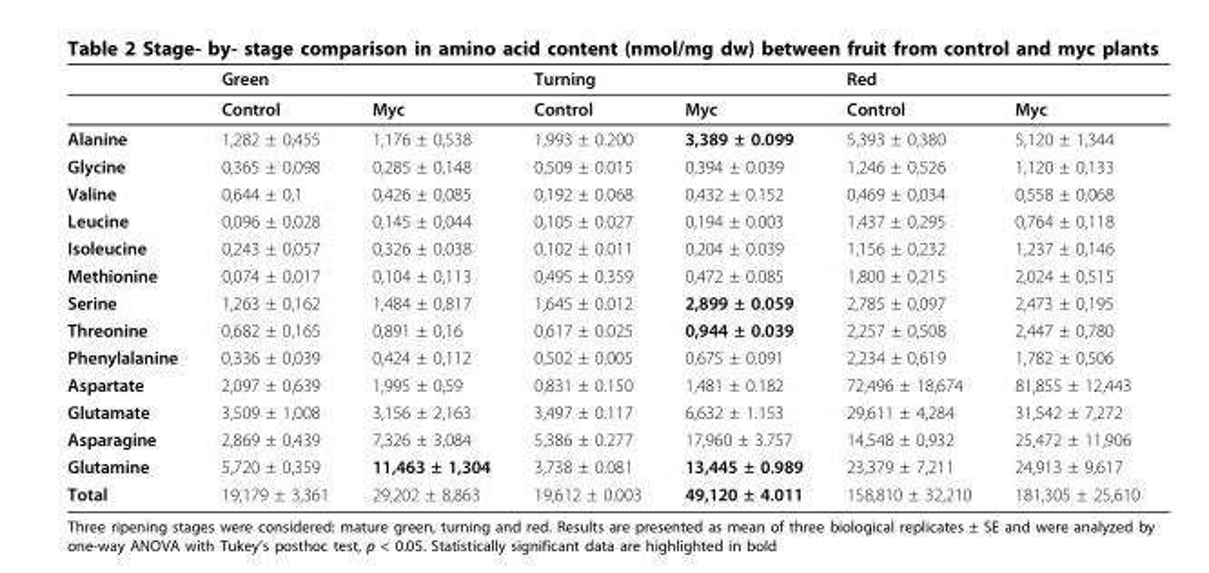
<table><thead><tr><td rowspan="2"></td><td colspan="2">Green</td><td colspan="2">Turning</td><td colspan="2">Red</td></tr><tr><td>Control</td><td>Myc</td><td>Control</td><td>Myc</td><td>Control</td><td>Myc</td></tr></thead><tbody><tr><td>Alanine</td><td>1,282 ± 0,455</td><td>1,176 ± 0,538</td><td>1,993 ± 0.200</td><td>3,389 ± 0.099</td><td>5,393 ± 0,380</td><td>5,120 ± 1,344</td></tr><tr><td>Glycine</td><td>0,365 ± 0,098</td><td>0,285 ± 0,148</td><td>0,509 ± 0.015</td><td>0,394 ± 0.039</td><td>1,246 ± 0,526</td><td>1,120 ± 0,133</td></tr><tr><td>Valine</td><td>0,644 ± 0,1</td><td>0,426 ± 0,085</td><td>0,192 ± 0.068</td><td>0,432 ± 0.152</td><td>0,469 ± 0,034</td><td>0,558 ± 0,068</td></tr><tr><td>Leucine</td><td>0,096 ± 0,028</td><td>0,145 ± 0,044</td><td>0,105 ± 0.027</td><td>0,194 ± 0.003</td><td>1,437 ± 0,295</td><td>0,764 ± 0,118</td></tr><tr><td>Isoleucine</td><td>0,243 ± 0,057</td><td>0,326 ± 0,038</td><td>0,102 ± 0.011</td><td>0,204 ± 0.039</td><td>1,156 ± 0,232</td><td>1,237 ± 0,146</td></tr><tr><td>Methionine</td><td>0,074 ± 0,017</td><td>0,104 ± 0,113</td><td>0,495 ± 0.359</td><td>0,472 ± 0.085</td><td>1,800 ± 0,215</td><td>2,024 ± 0,515</td></tr><tr><td>Serine</td><td>1,263 ± 0,162</td><td>1,484 ± 0,817</td><td>1,645 ± 0.012</td><td>2,899 ± 0.059</td><td>2,785 ± 0,097</td><td>2,473 ± 0,195</td></tr><tr><td>Threonine</td><td>0,682 ± 0,165</td><td>0,891 ± 0,16</td><td>0,617 ± 0.025</td><td>0,944 ± 0.039</td><td>2,257 ± 0,508</td><td>2,447 ± 0,780</td></tr><tr><td>Phenylalanine</td><td>0,336 ± 0,039</td><td>0,424 ± 0,112</td><td>0,502 ± 0.005</td><td>0,675 ± 0.091</td><td>2,234 ± 0,619</td><td>1,782 ± 0,506</td></tr><tr><td>Aspartate</td><td>2,097 ± 0,639</td><td>1,995 ± 0,59</td><td>0,831 ± 0.150</td><td>1,481 ± 0.182</td><td>72,496 ± 18,674</td><td>81,855 ± 12,443</td></tr><tr><td>Glutamate</td><td>3,509 ± 1,008</td><td>3,156 ± 2,163</td><td>3,497 ± 0.117</td><td>6,632 ± 1.153</td><td>29,611 ± 4,284</td><td>31,542 ± 7,272</td></tr><tr><td>Asparagine</td><td>2,869 ± 0,439</td><td>7,326 ± 3,084</td><td>5,386 ± 0.277</td><td>17,960 ± 3.757</td><td>14,548 ± 0,932</td><td>25,472 ± 11,906</td></tr><tr><td>Glutamine</td><td>5,720 ± 0,359</td><td>11,463 ± 1,304</td><td>3,738 ± 0.081</td><td>13,445 ± 0.989</td><td>23,379 ± 7,211</td><td>24,913 ± 9,617</td></tr><tr><td>Total</td><td>19,179 ± 3,361</td><td>29,202 ± 8,863</td><td>19,612 ± 0.003</td><td>49,120 ± 4.011</td><td>158,810 ± 32,210</td><td>181,305 ± 25,610</td></tr></tbody></table>